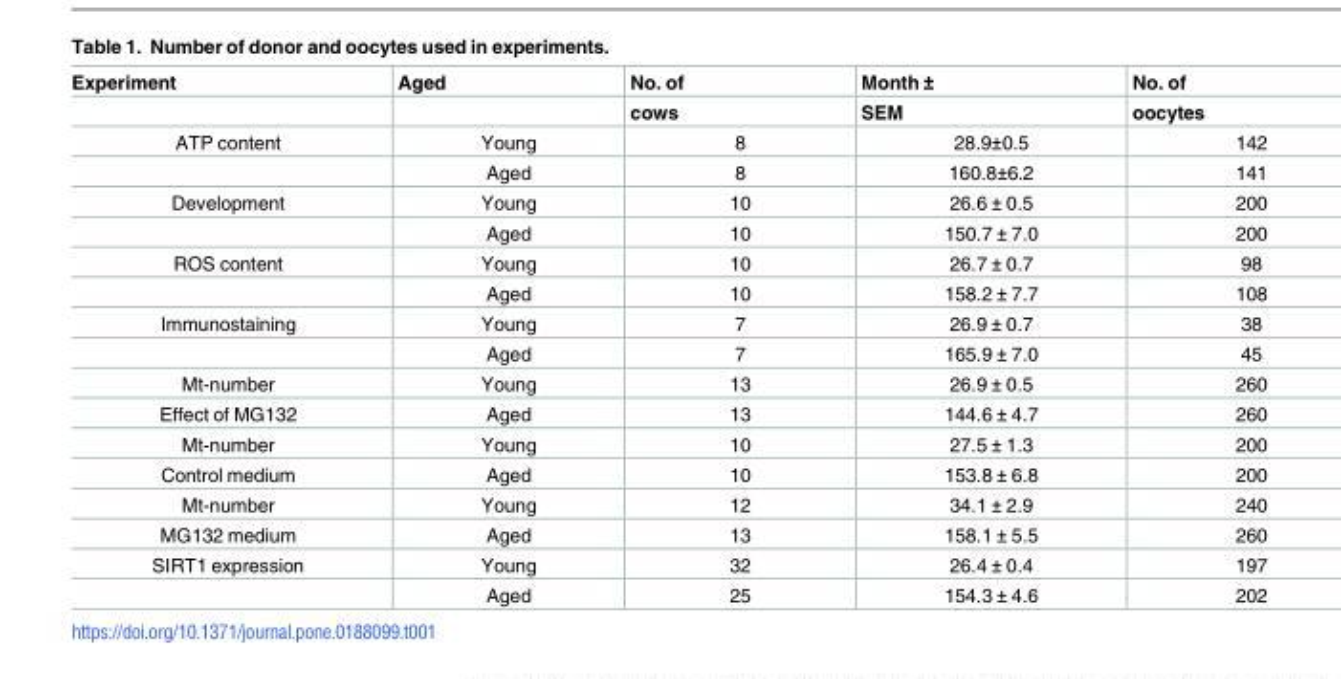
<table><thead><tr><td rowspan="2">Experiment</td><td rowspan="2">Aged</td><td rowspan="2">No. of cows</td><td rowspan="2">Month ± SEM</td><td rowspan="2">No. of oocytes</td></tr><tr></tr></thead><tbody><tr><td rowspan="2">ATP content</td><td>Young</td><td>8</td><td>28.9±0.5</td><td>142</td></tr><tr><td>Aged</td><td>8</td><td>160.8±6.2</td><td>141</td></tr><tr><td rowspan="2">Development</td><td>Young</td><td>10</td><td>26.6 ± 0.5</td><td>200</td></tr><tr><td>Aged</td><td>10</td><td>150.7 ± 7.0</td><td>200</td></tr><tr><td rowspan="2">ROS content</td><td>Young</td><td>10</td><td>26.7 ± 0.7</td><td>98</td></tr><tr><td>Aged</td><td>10</td><td>158.2 ± 7.7</td><td>108</td></tr><tr><td rowspan="2">Immunostaining</td><td>Young</td><td>7</td><td>26.9 ± 0.7</td><td>38</td></tr><tr><td>Aged</td><td>7</td><td>165.9 ± 7.0</td><td>45</td></tr><tr><td>Mt-number</td><td>Young</td><td>13</td><td>26.9 ± 0.5</td><td>260</td></tr><tr><td>Effect of MG132</td><td>Aged</td><td>13</td><td>144.6 ± 4.7</td><td>260</td></tr><tr><td>Mt-number</td><td>Young</td><td>10</td><td>27.5 ± 1.3</td><td>200</td></tr><tr><td>Control medium</td><td>Aged</td><td>10</td><td>153.8 ± 6.8</td><td>200</td></tr><tr><td>Mt-number</td><td>Young</td><td>12</td><td>34.1 ± 2.9</td><td>240</td></tr><tr><td>MG132 medium</td><td>Aged</td><td>13</td><td>158.1 ± 5.5</td><td>260</td></tr><tr><td rowspan="2">SIRT1 expression</td><td>Young</td><td>32</td><td>26.4 ± 0.4</td><td>197</td></tr><tr><td>Aged</td><td>25</td><td>154.3 ± 4.6</td><td>202</td></tr></tbody></table>